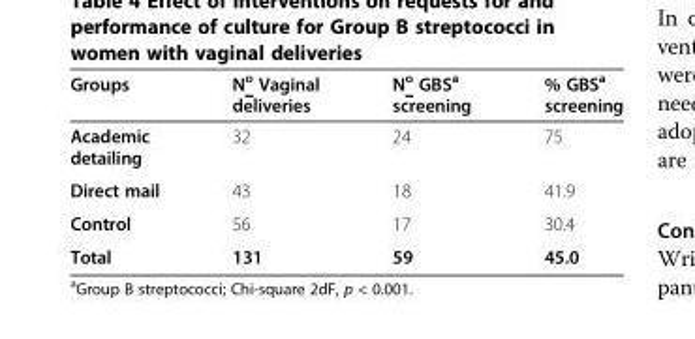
<table><thead><tr><td>Groups</td><td>N<sup>o</sup> Vaginal deliveries</td><td>N<sup>o</sup> GBS<sup>a</sup> screening</td><td>% GBS<sup>a</sup> screening</td></tr></thead><tbody><tr><td>Academic detailing</td><td>32</td><td>24</td><td>75</td></tr><tr><td>Direct mail</td><td>43</td><td>18</td><td>41.9</td></tr><tr><td>Control</td><td>56</td><td>17</td><td>30.4</td></tr><tr><td>Total</td><td>131</td><td>59</td><td>45.0</td></tr></tbody></table>